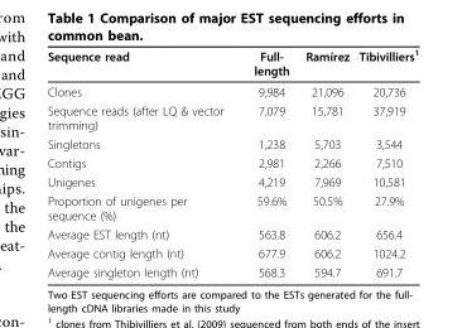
<table><thead><tr><td>Sequence read</td><td>Full- length</td><td>Ramírez</td><td>Tibivilliers<sup>1</sup></td></tr></thead><tbody><tr><td>Clones</td><td>9,984</td><td>21,096</td><td>20,736</td></tr><tr><td>Sequence reads (after LQ &amp; vector trimming)</td><td>7,079</td><td>15,781</td><td>37,919</td></tr><tr><td>Singletons</td><td>1,238</td><td>5,703</td><td>3,544</td></tr><tr><td>Contigs</td><td>2,981</td><td>2,266</td><td>7,510</td></tr><tr><td>Unigenes</td><td>4,219</td><td>7,969</td><td>10,581</td></tr><tr><td>Proportion of unigenes per sequence (%)</td><td>59.6%</td><td>50.5%</td><td>27.9%</td></tr><tr><td>Average EST length (nt)</td><td>563.8</td><td>606.2</td><td>656.4</td></tr><tr><td>Average contig length (nt)</td><td>677.9</td><td>606.2</td><td>1024.2</td></tr><tr><td>Average singleton length (nt)</td><td>568.3</td><td>594.7</td><td>691.7</td></tr></tbody></table>